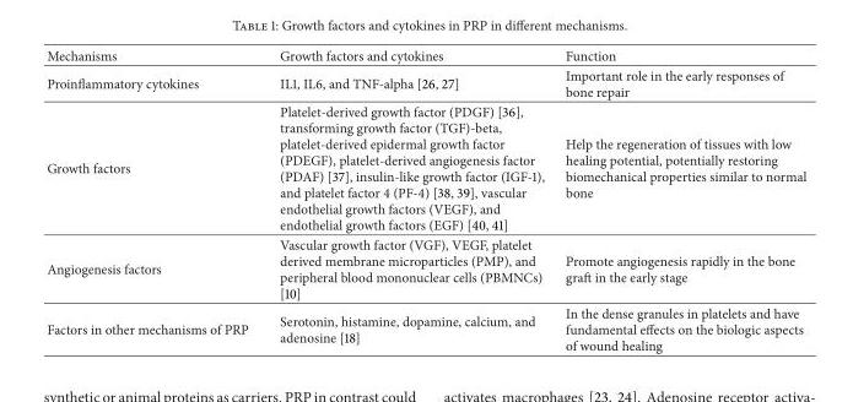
<table><thead><tr><td>Mechanisms</td><td>Growth factors and cytokines</td><td>Function</td></tr></thead><tbody><tr><td>Proinflammatory cytokines</td><td>IL1, IL6, and TNF-alpha [26, 27]</td><td>Important role in the early responses of bone repair</td></tr><tr><td>Growth factors</td><td>Platelet-derived growth factor (PDGF) [36], transforming growth factor (TGF)-beta, platelet-derived epidermal growth factor (PDEGF), platelet-derived angiogenesis factor (PDAF) [37], insulin-like growth factor (IGF-1), and platelet factor 4 (PF-4) [38, 39], vascular endothelial growth factors (VEGF), and endothelial growth factors (EGF) [40, 41]</td><td>Help the regeneration of tissues with low healing potential, potentially restoring biomechanical properties similar to normal bone</td></tr><tr><td>Angiogenesis factors</td><td>Vascular growth factor (VGF), VEGF, platelet derived membrane microparticles (PMP), and peripheral blood mononuclear cells (PBMNCs) [10]</td><td>Promote angiogenesis rapidly in the bone graft in the early stage</td></tr><tr><td>Factors in other mechanisms of PRP</td><td>Serotonin, histamine, dopamine, calcium, and adenosine [18]</td><td>In the dense granules in platelets and have fundamental effects on the biologic aspects of wound healing</td></tr></tbody></table>